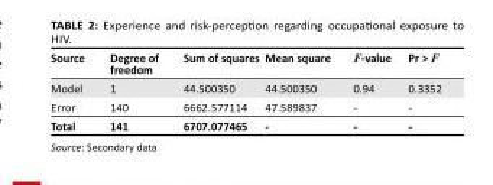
<table><thead><tr><td>Source</td><td>Degree of freedom</td><td>Sum of squares</td><td>Mean square</td><td>F-value</td><td>Pr &gt; F</td></tr></thead><tbody><tr><td>Model</td><td>1</td><td>44.500350</td><td>44.500350</td><td>0.94</td><td>0.3352</td></tr><tr><td>Error</td><td>140</td><td>6662.577114</td><td>47.589837</td><td>-</td><td>-</td></tr><tr><td>Total</td><td>141</td><td>6707.077465</td><td>-</td><td>-</td><td>-</td></tr></tbody></table>